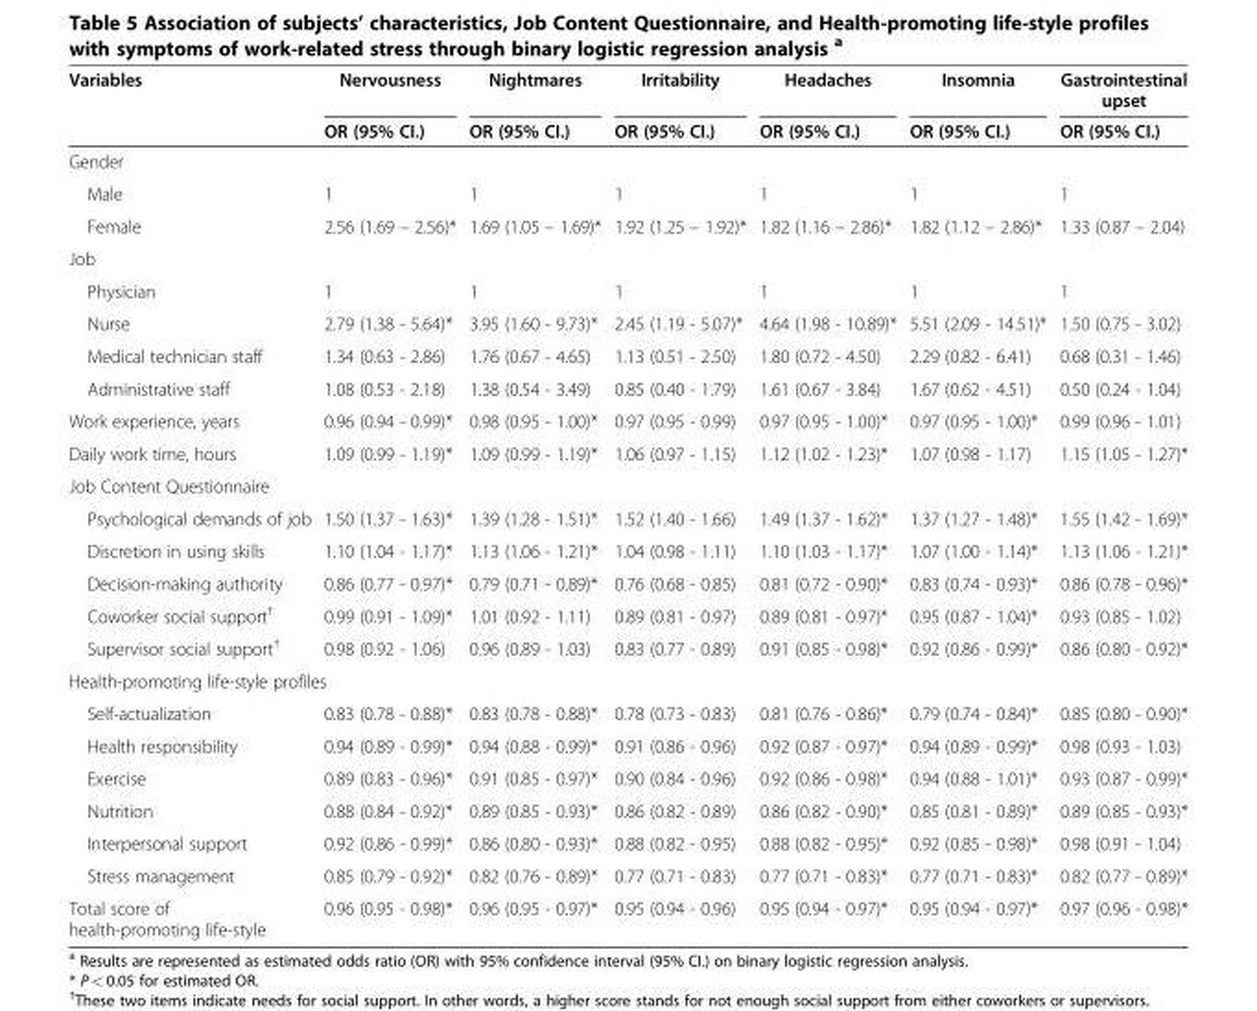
<table><thead><tr><td rowspan="2">Variables</td><td rowspan="2">Nervousness OR (95% CI.)</td><td rowspan="2">Nightmares OR (95% CI.)</td><td rowspan="2">Irritability OR (95% CI.)</td><td rowspan="2">Headaches OR (95% CI.)</td><td rowspan="2">Insomnia OR (95% CI.)</td><td rowspan="2">Gastrointestinal upset OR (95% CI.)</td></tr><tr></tr></thead><tbody><tr><td colspan="7">Gender</td></tr><tr><td>Male</td><td>1</td><td>1</td><td>1</td><td>1</td><td>1</td><td>1</td></tr><tr><td>Female</td><td>2.56 (1.69 – 2.56)*</td><td>1.69 (1.05 – 1.69)*</td><td>1.92 (1.25 – 1.92)*</td><td>1.82 (1.16 – 2.86)*</td><td>1.82 (1.12 – 2.86)*</td><td>1.33 (0.87 – 2.04)</td></tr><tr><td colspan="7">Job</td></tr><tr><td>Physician</td><td>1</td><td>1</td><td>1</td><td>1</td><td>1</td><td>1</td></tr><tr><td>Nurse</td><td>2.79 (1.38 - 5.64)*</td><td>3.95 (1.60 - 9.73)*</td><td>2.45 (1.19 - 5.07)*</td><td>4.64 (1.98 - 10.89)*</td><td>5.51 (2.09 - 14.51)*</td><td>1.50 (0.75 - 3.02)</td></tr><tr><td>Medical technician staff</td><td>1.34 (0.63 - 2.86)</td><td>1.76 (0.67 - 4.65)</td><td>1.13 (0.51 - 2.50)</td><td>1.80 (0.72 - 4.50)</td><td>2.29 (0.82 - 6.41)</td><td>0.68 (0.31 - 1.46)</td></tr><tr><td>Administrative staff</td><td>1.08 (0.53 - 2.18)</td><td>1.38 (0.54 - 3.49)</td><td>0.85 (0.40 - 1.79)</td><td>1.61 (0.67 - 3.84)</td><td>1.67 (0.62 - 4.51)</td><td>0.50 (0.24 - 1.04)</td></tr><tr><td>Work experience, years</td><td>0.96 (0.94 - 0.99)*</td><td>0.98 (0.95 - 1.00)*</td><td>0.97 (0.95 - 0.99)</td><td>0.97 (0.95 - 1.00)*</td><td>0.97 (0.95 - 1.00)*</td><td>0.99 (0.96 - 1.01)</td></tr><tr><td>Daily work time, hours</td><td>1.09 (0.99 - 1.19)*</td><td>1.09 (0.99 - 1.19)*</td><td>1.06 (0.97 - 1.15)</td><td>1.12 (1.02 - 1.23)*</td><td>1.07 (0.98 - 1.17)</td><td>1.15 (1.05 - 1.27)*</td></tr><tr><td colspan="7">Job Content Questionnaire</td></tr><tr><td>Psychological demands of job</td><td>1.50 (1.37 - 1.63)*</td><td>1.39 (1.28 - 1.51)*</td><td>1.52 (1.40 - 1.66)</td><td>1.49 (1.37 - 1.62)*</td><td>1.37 (1.27 - 1.48)*</td><td>1.55 (1.42 - 1.69)*</td></tr><tr><td>Discretion in using skills</td><td>1.10 (1.04 - 1.17)*</td><td>1.13 (1.06 - 1.21)*</td><td>1.04 (0.98 - 1.11)</td><td>1.10 (1.03 - 1.17)*</td><td>1.07 (1.00 - 1.14)*</td><td>1.13 (1.06 - 1.21)*</td></tr><tr><td>Decision-making authority</td><td>0.86 (0.77 - 0.97)*</td><td>0.79 (0.71 - 0.89)*</td><td>0.76 (0.68 - 0.85)</td><td>0.81 (0.72 - 0.90)*</td><td>0.83 (0.74 - 0.93)*</td><td>0.86 (0.78 - 0.96)*</td></tr><tr><td>Coworker social support<sup>†</sup></td><td>0.99 (0.91 - 1.09)*</td><td>1.01 (0.92 - 1.11)</td><td>0.89 (0.81 - 0.97)</td><td>0.89 (0.81 - 0.97)*</td><td>0.95 (0.87 - 1.04)*</td><td>0.93 (0.85 - 1.02)</td></tr><tr><td>Supervisor social support<sup>†</sup></td><td>0.98 (0.92 - 1.06)</td><td>0.96 (0.89 - 1.03)</td><td>0.83 (0.77 - 0.89)</td><td>0.91 (0.85 - 0.98)*</td><td>0.92 (0.86 - 0.99)*</td><td>0.86 (0.80 - 0.92)*</td></tr><tr><td colspan="7">Health-promoting life-style profiles</td></tr><tr><td>Self-actualization</td><td>0.83 (0.78 - 0.88)*</td><td>0.83 (0.78 - 0.88)*</td><td>0.78 (0.73 - 0.83)</td><td>0.81 (0.76 - 0.86)*</td><td>0.79 (0.74 - 0.84)*</td><td>0.85 (0.80 - 0.90)*</td></tr><tr><td>Health responsibility</td><td>0.94 (0.89 - 0.99)*</td><td>0.94 (0.88 - 0.99)*</td><td>0.91 (0.86 - 0.96)</td><td>0.92 (0.87 - 0.97)*</td><td>0.94 (0.89 - 0.99)*</td><td>0.98 (0.93 - 1.03)</td></tr><tr><td>Exercise</td><td>0.89 (0.83 - 0.96)*</td><td>0.91 (0.85 - 0.97)*</td><td>0.90 (0.84 - 0.96)</td><td>0.92 (0.86 - 0.98)*</td><td>0.94 (0.88 - 1.01)*</td><td>0.93 (0.87 - 0.99)*</td></tr><tr><td>Nutrition</td><td>0.88 (0.84 - 0.92)*</td><td>0.89 (0.85 - 0.93)*</td><td>0.86 (0.82 - 0.89)</td><td>0.86 (0.82 - 0.90)*</td><td>0.85 (0.81 - 0.89)*</td><td>0.89 (0.85 - 0.93)*</td></tr><tr><td>Interpersonal support</td><td>0.92 (0.86 - 0.99)*</td><td>0.86 (0.80 - 0.93)*</td><td>0.88 (0.82 - 0.95)</td><td>0.88 (0.82 - 0.95)*</td><td>0.92 (0.85 - 0.98)*</td><td>0.98 (0.91 - 1.04)</td></tr><tr><td>Stress management</td><td>0.85 (0.79 - 0.92)*</td><td>0.82 (0.76 - 0.89)*</td><td>0.77 (0.71 - 0.83)</td><td>0.77 (0.71 - 0.83)*</td><td>0.77 (0.71 - 0.83)*</td><td>0.82 (0.77 - 0.89)*</td></tr><tr><td>Total score of health-promoting life-style</td><td>0.96 (0.95 - 0.98)*</td><td>0.96 (0.95 - 0.97)*</td><td>0.95 (0.94 - 0.96)</td><td>0.95 (0.94 - 0.97)*</td><td>0.95 (0.94 - 0.97)*</td><td>0.97 (0.96 - 0.98)*</td></tr></tbody></table>